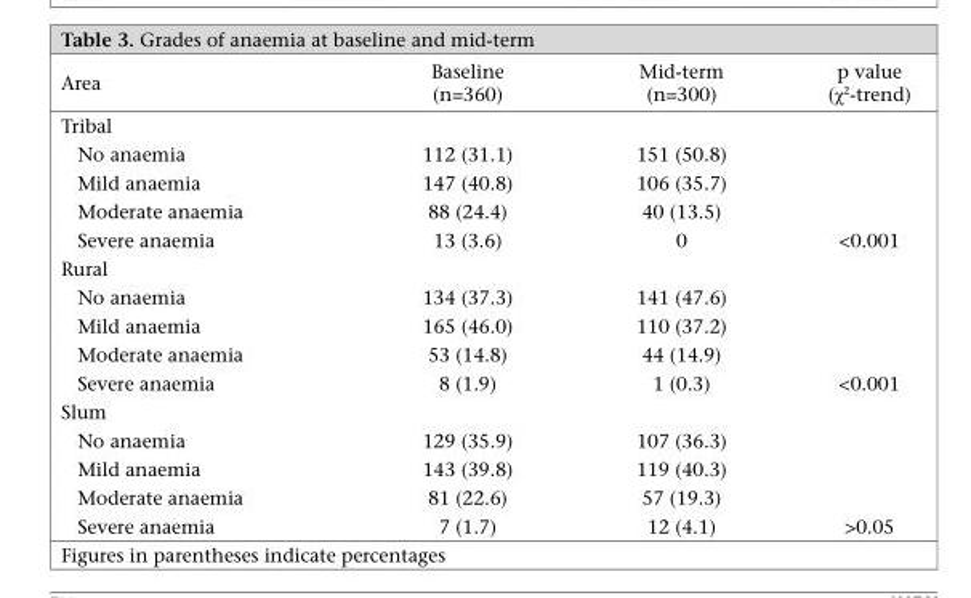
<table><thead><tr><td>Area</td><td>Baseline (n=360)</td><td>Mid-term (n=300)</td><td>p value (χ<sup>2</sup>-trend)</td></tr></thead><tbody><tr><td colspan="4">Tribal</td></tr><tr><td>No anaemia</td><td>112 (31.1)</td><td>151 (50.8)</td><td></td></tr><tr><td>Mild anaemia</td><td>147 (40.8)</td><td>106 (35.7)</td><td></td></tr><tr><td>Moderate anaemia</td><td>88 (24.4)</td><td>40 (13.5)</td><td></td></tr><tr><td>Severe anaemia</td><td>13 (3.6)</td><td>0</td><td>&lt;0.001</td></tr><tr><td colspan="4">Rural</td></tr><tr><td>No anaemia</td><td>134 (37.3)</td><td>141 (47.6)</td><td></td></tr><tr><td>Mild anaemia</td><td>165 (46.0)</td><td>110 (37.2)</td><td></td></tr><tr><td>Moderate anaemia</td><td>53 (14.8)</td><td>44 (14.9)</td><td></td></tr><tr><td>Severe anaemia</td><td>8 (1.9)</td><td>1 (0.3)</td><td>&lt;0.001</td></tr><tr><td colspan="4">Slum</td></tr><tr><td>No anaemia</td><td>129 (35.9)</td><td>107 (36.3)</td><td></td></tr><tr><td>Mild anaemia</td><td>143 (39.8)</td><td>119 (40.3)</td><td></td></tr><tr><td>Moderate anaemia</td><td>81 (22.6)</td><td>57 (19.3)</td><td></td></tr><tr><td>Severe anaemia</td><td>7 (1.7)</td><td>12 (4.1)</td><td>&gt;0.05</td></tr></tbody></table>